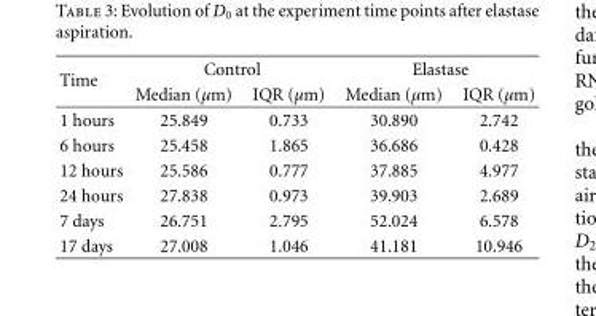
<table><thead><tr><td rowspan="2">Time</td><td colspan="2">Control</td><td colspan="2">Elastase</td></tr><tr><td>Median (μm)</td><td>IQR (μm)</td><td>Median (μm)</td><td>IQR (μm)</td></tr></thead><tbody><tr><td>1 hours</td><td>25.849</td><td>0.733</td><td>30.890</td><td>2.742</td></tr><tr><td>6 hours</td><td>25.458</td><td>1.865</td><td>36.686</td><td>0.428</td></tr><tr><td>12 hours</td><td>25.586</td><td>0.777</td><td>37.885</td><td>4.977</td></tr><tr><td>24 hours</td><td>27.838</td><td>0.973</td><td>39.903</td><td>2.689</td></tr><tr><td>7 days</td><td>26.751</td><td>2.795</td><td>52.024</td><td>6.578</td></tr><tr><td>17 days</td><td>27.008</td><td>1.046</td><td>41.181</td><td>10.946</td></tr></tbody></table>